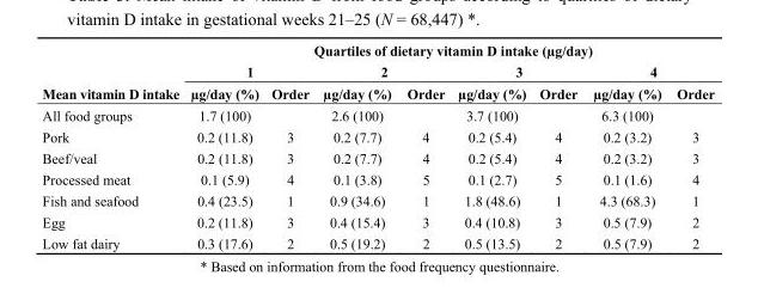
<table><thead><tr><td rowspan="3">Mean vitamin D intake</td><td colspan="8">Quartiles of dietary vitamin D intake (µg/day)</td></tr><tr><td colspan="2">1</td><td colspan="2">2</td><td colspan="2">3</td><td colspan="2">4</td></tr><tr><td>µg/day (%)</td><td>Order</td><td>µg/day (%)</td><td>Order</td><td>µg/day (%)</td><td>Order</td><td>µg/day (%)</td><td>Order</td></tr></thead><tbody><tr><td>All food groups</td><td>1.7 (100)</td><td></td><td>2.6 (100)</td><td></td><td>3.7 (100)</td><td></td><td>6.3 (100)</td><td></td></tr><tr><td>Pork</td><td>0.2 (11.8)</td><td>3</td><td>0.2 (7.7)</td><td>4</td><td>0.2 (5.4)</td><td>4</td><td>0.2 (3.2)</td><td>3</td></tr><tr><td>Beef/veal</td><td>0.2 (11.8)</td><td>3</td><td>0.2 (7.7)</td><td>4</td><td>0.2 (5.4)</td><td>4</td><td>0.2 (3.2)</td><td>3</td></tr><tr><td>Processed meat</td><td>0.1 (5.9)</td><td>4</td><td>0.1 (3.8)</td><td>5</td><td>0.1 (2.7)</td><td>5</td><td>0.1 (1.6)</td><td>4</td></tr><tr><td>Fish and seafood</td><td>0.4 (23.5)</td><td>1</td><td>0.9 (34.6)</td><td>1</td><td>1.8 (48.6)</td><td>1</td><td>4.3 (68.3)</td><td>1</td></tr><tr><td>Egg</td><td>0.2 (11.8)</td><td>3</td><td>0.4 (15.4)</td><td>3</td><td>0.4 (10.8)</td><td>3</td><td>0.5 (7.9)</td><td>2</td></tr><tr><td>Low fat dairy</td><td>0.3 (17.6)</td><td>2</td><td>0.5 (19.2)</td><td>2</td><td>0.5 (13.5)</td><td>2</td><td>0.5 (7.9)</td><td>2</td></tr></tbody></table>